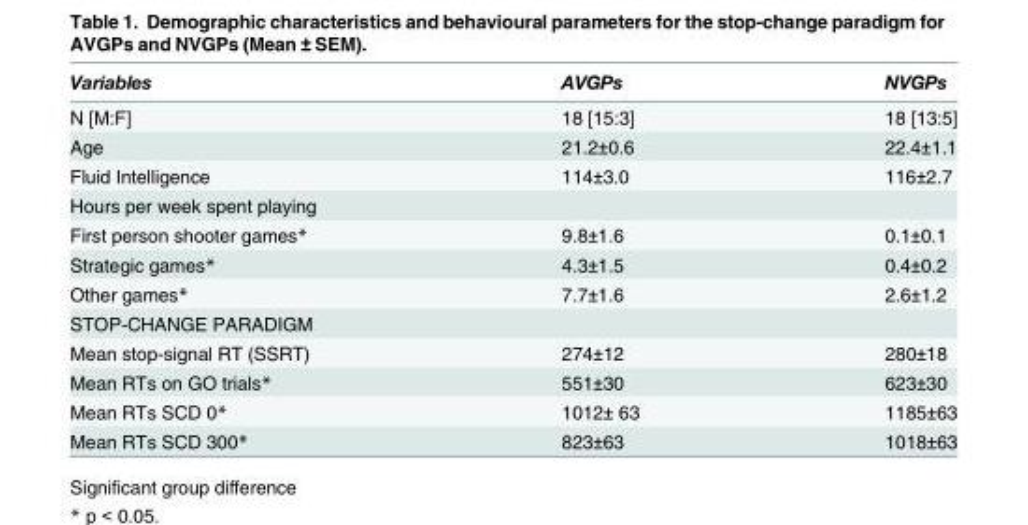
<table><thead><tr><td>Variables</td><td>AVGPs</td><td>NVGPs</td></tr></thead><tbody><tr><td>N [M:F]</td><td>18 [15:3]</td><td>18 [13:5]</td></tr><tr><td>Age</td><td>21.2±0.6</td><td>22.4±1.1</td></tr><tr><td>Fluid Intelligence</td><td>114±3.0</td><td>116±2.7</td></tr><tr><td colspan="3">Hours per week spent playing</td></tr><tr><td>First person shooter games*</td><td>9.8±1.6</td><td>0.1±0.1</td></tr><tr><td>Strategic games*</td><td>4.3±1.5</td><td>0.4±0.2</td></tr><tr><td>Other games*</td><td>7.7±1.6</td><td>2.6±1.2</td></tr><tr><td colspan="3">STOP-CHANGE PARADIGM</td></tr><tr><td>Mean stop-signal RT (SSRT)</td><td>274±12</td><td>280±18</td></tr><tr><td>Mean RTs on GO trials*</td><td>551±30</td><td>623±30</td></tr><tr><td>Mean RTs SCD 0*</td><td>1012± 63</td><td>1185±63</td></tr><tr><td>Mean RTs SCD 300*</td><td>823±63</td><td>1018±63</td></tr></tbody></table>